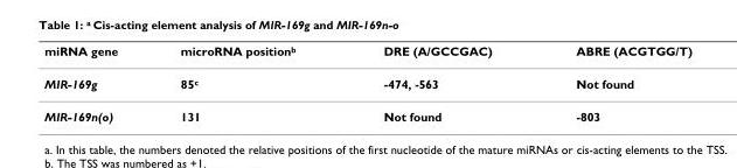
<table><thead><tr><td>miRNA gene</td><td>microRNA position<sup>b</sup></td><td>DRE (A/GCCGAC)</td><td>ABRE (ACGTGG/T)</td></tr></thead><tbody><tr><td>MIR-169g</td><td>85<sup>c</sup></td><td>-474, -563</td><td>Not found</td></tr><tr><td>MIR-169n(o)</td><td>131</td><td>Not found</td><td>-803</td></tr></tbody></table>